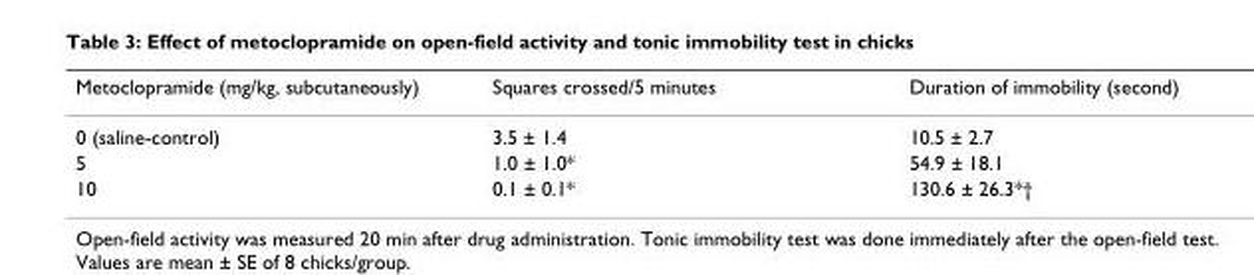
<table><thead><tr><td>Metoclopramide (mg/kg, subcutaneously)</td><td>Squares crossed/5 minutes</td><td>Duration of immobility (second)</td></tr></thead><tbody><tr><td>0 (saline-control)</td><td>3.5 ± 1.4</td><td>10.5 ± 2.7</td></tr><tr><td>5</td><td>1.0 ± 1.0*</td><td>54.9 ± 18.1</td></tr><tr><td>10</td><td>0.1 ± 0.1*</td><td>130.6 ± 26.3*†</td></tr></tbody></table>